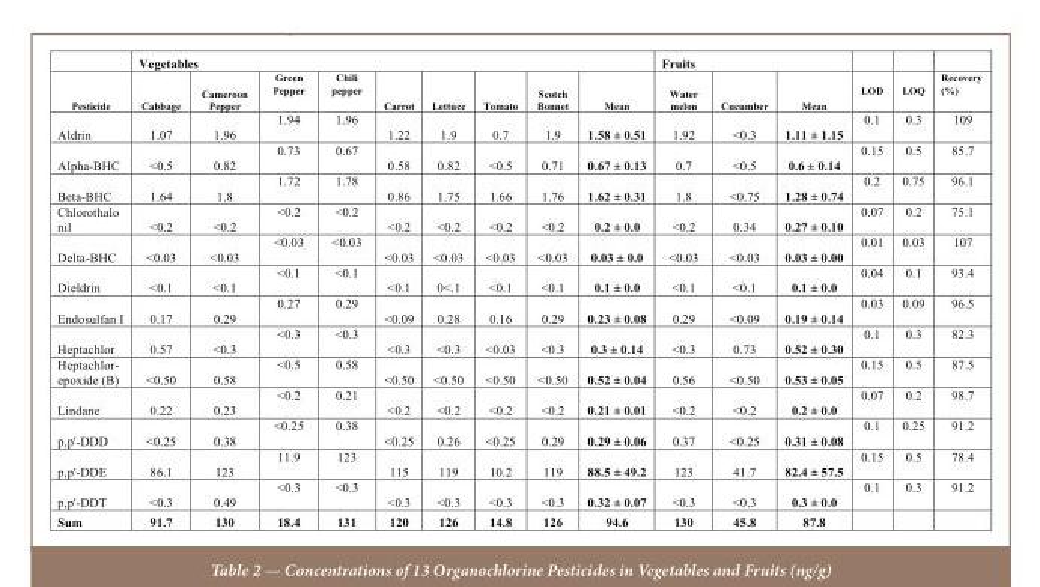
<table><thead><tr><td rowspan="2">Pesticide</td><td colspan="9">Vegetables</td><td colspan="3">Fruits</td><td rowspan="2">LOD</td><td rowspan="2">LOQ</td><td rowspan="2">Recovery (%)</td></tr><tr><td>Cabbage</td><td>Cameroon Pepper</td><td>Green Pepper</td><td>Chili pepper</td><td>Carrot</td><td>Lettuce</td><td>Tomato</td><td>Scotch Bonnet</td><td>Mean</td><td>Water melon</td><td>Cucumber</td><td>Mean</td></tr></thead><tbody><tr><td>Aldrin</td><td>1.07</td><td>1.96</td><td>1.94</td><td>1.96</td><td>1.22</td><td>1.9</td><td>0.7</td><td>1.9</td><td>1.58 ± 0.51</td><td>1.92</td><td>&lt;0.3</td><td>1.11 ± 1.15</td><td>0.1</td><td>0.3</td><td>109</td></tr><tr><td>Alpha-BHC</td><td>&lt;0.5</td><td>0.82</td><td>0.73</td><td>0.67</td><td>0.58</td><td>0.82</td><td>&lt;0.5</td><td>0.71</td><td>0.67 ± 0.13</td><td>0.7</td><td>&lt;0.5</td><td>0.6 ± 0.14</td><td>0.15</td><td>0.5</td><td>85.7</td></tr><tr><td>Beta-BHC</td><td>1.64</td><td>1.8</td><td>1.72</td><td>1.78</td><td>0.86</td><td>1.75</td><td>1.66</td><td>1.76</td><td>1.62 ± 0.31</td><td>1.8</td><td>&lt;0.75</td><td>1.28 ± 0.74</td><td>0.2</td><td>0.75</td><td>96.1</td></tr><tr><td>Chlorothalo nil</td><td>&lt;0.2</td><td>&lt;0.2</td><td>&lt;0.2</td><td>&lt;0.2</td><td>&lt;0.2</td><td>&lt;0.2</td><td>&lt;0.2</td><td>&lt;0.2</td><td>0.2 ± 0.0</td><td>&lt;0.2</td><td>0.34</td><td>0.27 ± 0.10</td><td>0.07</td><td>0.2</td><td>75.1</td></tr><tr><td>Delta-BHC</td><td>&lt;0.03</td><td>&lt;0.03</td><td>&lt;0.03</td><td>&lt;0.03</td><td>&lt;0.03</td><td>&lt;0.03</td><td>&lt;0.03</td><td>&lt;0.03</td><td>0.03 ± 0.0</td><td>&lt;0.03</td><td>&lt;0.03</td><td>0.03 ± 0.00</td><td>0.01</td><td>0.03</td><td>107</td></tr><tr><td>Dieldrin</td><td>&lt;0.1</td><td>&lt;0.1</td><td>&lt;0.1</td><td>&lt;0.1</td><td>&lt;0.1</td><td>0&lt;.1</td><td>&lt;0.1</td><td>&lt;0.1</td><td>0.1 ± 0.0</td><td>&lt;0.1</td><td>&lt;0.1</td><td>0.1 ± 0.0</td><td>0.04</td><td>0.1</td><td>93.4</td></tr><tr><td>Endosulfan I</td><td>0.17</td><td>0.29</td><td>0.27</td><td>0.29</td><td>&lt;0.09</td><td>0.28</td><td>0.16</td><td>0.29</td><td>0.23 ± 0.08</td><td>0.29</td><td>&lt;0.09</td><td>0.19 ± 0.14</td><td>0.03</td><td>0.09</td><td>96.5</td></tr><tr><td>Heptachlor</td><td>0.57</td><td>&lt;0.3</td><td>&lt;0.3</td><td>&lt;0.3</td><td>&lt;0.3</td><td>&lt;0.3</td><td>&lt;0.03</td><td>&lt;0.3</td><td>0.3 ± 0.14</td><td>&lt;0.3</td><td>0.73</td><td>0.52 ± 0.30</td><td>0.1</td><td>0.3</td><td>82.3</td></tr><tr><td>Heptachlor- epoxide (B)</td><td>&lt;0.50</td><td>0.58</td><td>&lt;0.5</td><td>0.58</td><td>&lt;0.50</td><td>&lt;0.50</td><td>&lt;0.50</td><td>&lt;0.50</td><td>0.52 ± 0.04</td><td>0.56</td><td>&lt;0.50</td><td>0.53 ± 0.05</td><td>0.15</td><td>0.5</td><td>87.5</td></tr><tr><td>Lindane</td><td>0.22</td><td>0.23</td><td>&lt;0.2</td><td>0.21</td><td>&lt;0.2</td><td>&lt;0.2</td><td>&lt;0.2</td><td>&lt;0.2</td><td>0.21 ± 0.01</td><td>&lt;0.2</td><td>&lt;0.2</td><td>0.2 ± 0.0</td><td>0.07</td><td>0.2</td><td>98.7</td></tr><tr><td>p,p&#x27;-DDD</td><td>&lt;0.25</td><td>0.38</td><td>&lt;0.25</td><td>0.38</td><td>&lt;0.25</td><td>0.26</td><td>&lt;0.25</td><td>0.29</td><td>0.29 ± 0.06</td><td>0.37</td><td>&lt;0.25</td><td>0.31 ± 0.08</td><td>0.1</td><td>0.25</td><td>91.2</td></tr><tr><td>p,p&#x27;-DDE</td><td>86.1</td><td>123</td><td>11.9</td><td>123</td><td>115</td><td>119</td><td>10.2</td><td>119</td><td>88.5 ± 49.2</td><td>123</td><td>41.7</td><td>82.4 ± 57.5</td><td>0.15</td><td>0.5</td><td>78.4</td></tr><tr><td>p,p&#x27;-DDT</td><td>&lt;0.3</td><td>0.49</td><td>&lt;0.3</td><td>&lt;0.3</td><td>&lt;0.3</td><td>&lt;0.3</td><td>&lt;0.3</td><td>&lt;0.3</td><td>0.32 ± 0.07</td><td>&lt;0.3</td><td>&lt;0.3</td><td>0.3 ± 0.0</td><td>0.1</td><td>0.3</td><td>91.2</td></tr><tr><td>Sum</td><td>91.7</td><td>130</td><td>18.4</td><td>131</td><td>120</td><td>126</td><td>14.8</td><td>126</td><td>94.6</td><td>130</td><td>45.8</td><td>87.8</td><td></td><td></td><td></td></tr></tbody></table>